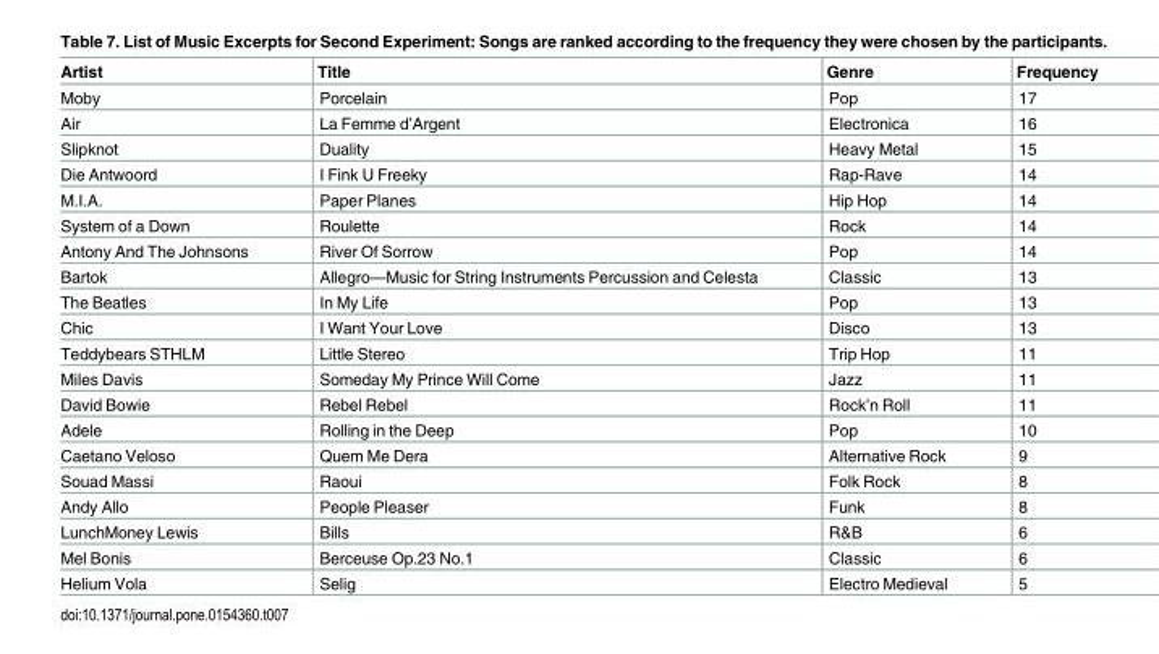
<table><thead><tr><td>Artist</td><td>Title</td><td>Genre</td><td>Frequency</td></tr></thead><tbody><tr><td>Moby</td><td>Porcelain</td><td>Pop</td><td>17</td></tr><tr><td>Air</td><td>La Femme d’Argent</td><td>Electronica</td><td>16</td></tr><tr><td>Slipknot</td><td>Duality</td><td>Heavy Metal</td><td>15</td></tr><tr><td>Die Antwoord</td><td>I Fink U Freeky</td><td>Rap-Rave</td><td>14</td></tr><tr><td>M.I.A.</td><td>Paper Planes</td><td>Hip Hop</td><td>14</td></tr><tr><td>System of a Down</td><td>Roulette</td><td>Rock</td><td>14</td></tr><tr><td>Antony And The Johnsons</td><td>River Of Sorrow</td><td>Pop</td><td>14</td></tr><tr><td>Bartok</td><td>Allegro—Music for String Instruments Percussion and Celesta</td><td>Classic</td><td>13</td></tr><tr><td>The Beatles</td><td>In My Life</td><td>Pop</td><td>13</td></tr><tr><td>Chic</td><td>I Want Your Love</td><td>Disco</td><td>13</td></tr><tr><td>Teddybears STHLM</td><td>Little Stereo</td><td>Trip Hop</td><td>11</td></tr><tr><td>Miles Davis</td><td>Someday My Prince Will Come</td><td>Jazz</td><td>11</td></tr><tr><td>David Bowie</td><td>Rebel Rebel</td><td>Rock’n Roll</td><td>11</td></tr><tr><td>Adele</td><td>Rolling in the Deep</td><td>Pop</td><td>10</td></tr><tr><td>Caetano Veloso</td><td>Quem Me Dera</td><td>Alternative Rock</td><td>9</td></tr><tr><td>Souad Massi</td><td>Raoui</td><td>Folk Rock</td><td>8</td></tr><tr><td>Andy Allo</td><td>People Pleaser</td><td>Funk</td><td>8</td></tr><tr><td>LunchMoney Lewis</td><td>Bills</td><td>R&amp;B</td><td>6</td></tr><tr><td>Mel Bonis</td><td>Berceuse Op.23 No.1</td><td>Classic</td><td>6</td></tr><tr><td>Helium Vola</td><td>Selig</td><td>Electro Medieval</td><td>5</td></tr></tbody></table>